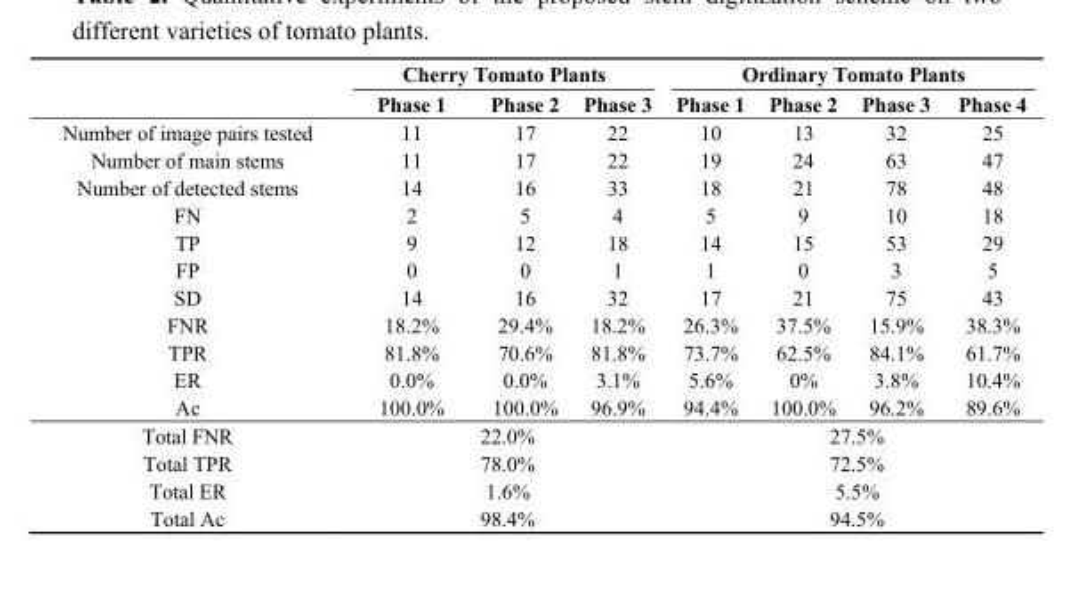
<table><thead><tr><td rowspan="2"></td><td colspan="3">Cherry Tomato Plants</td><td colspan="4">Ordinary Tomato Plants</td></tr><tr><td>Phase 1</td><td>Phase 2</td><td>Phase 3</td><td>Phase 1</td><td>Phase 2</td><td>Phase 3</td><td>Phase 4</td></tr></thead><tbody><tr><td>Number of image pairs tested</td><td>11</td><td>17</td><td>22</td><td>10</td><td>13</td><td>32</td><td>25</td></tr><tr><td>Number of main stems</td><td>11</td><td>17</td><td>22</td><td>19</td><td>24</td><td>63</td><td>47</td></tr><tr><td>Number of detected stems</td><td>14</td><td>16</td><td>33</td><td>18</td><td>21</td><td>78</td><td>48</td></tr><tr><td>FN</td><td>2</td><td>5</td><td>4</td><td>5</td><td>9</td><td>10</td><td>18</td></tr><tr><td>TP</td><td>9</td><td>12</td><td>18</td><td>14</td><td>15</td><td>53</td><td>29</td></tr><tr><td>FP</td><td>0</td><td>0</td><td>1</td><td>1</td><td>0</td><td>3</td><td>5</td></tr><tr><td>SD</td><td>14</td><td>16</td><td>32</td><td>17</td><td>21</td><td>75</td><td>43</td></tr><tr><td>FNR</td><td>18.2%</td><td>29.4%</td><td>18.2%</td><td>26.3%</td><td>37.5%</td><td>15.9%</td><td>38.3%</td></tr><tr><td>TPR</td><td>81.8%</td><td>70.6%</td><td>81.8%</td><td>73.7%</td><td>62.5%</td><td>84.1%</td><td>61.7%</td></tr><tr><td>ER</td><td>0.0%</td><td>0.0%</td><td>3.1%</td><td>5.6%</td><td>0%</td><td>3.8%</td><td>10.4%</td></tr><tr><td>Ac</td><td>100.0%</td><td>100.0%</td><td>96.9%</td><td>94.4%</td><td>100.0%</td><td>96.2%</td><td>89.6%</td></tr><tr><td>Total FNR</td><td colspan="3">22.0%</td><td colspan="4">27.5%</td></tr><tr><td>Total TPR</td><td colspan="3">78.0%</td><td colspan="4">72.5%</td></tr><tr><td>Total ER</td><td colspan="3">1.6%</td><td colspan="4">5.5%</td></tr><tr><td>Total Ac</td><td colspan="3">98.4%</td><td colspan="4">94.5%</td></tr></tbody></table>